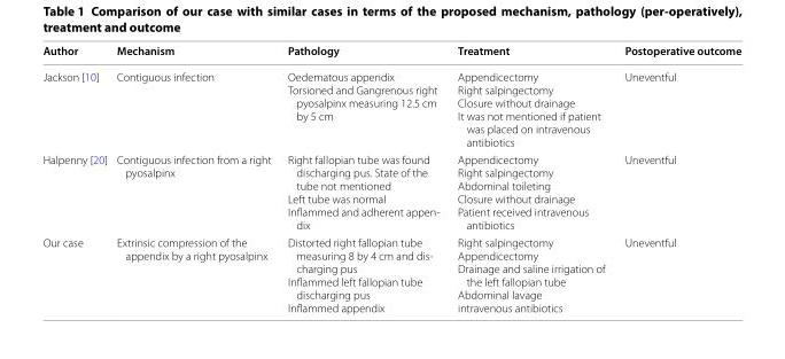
<table><thead><tr><td>Author</td><td>Mechanism</td><td>Pathology</td><td>Treatment</td><td>Postoperative outcome</td></tr></thead><tbody><tr><td>Jackson [10]</td><td>Contiguous infection</td><td>Oedematous appendix Torsioned and Gangrenous right pyosalpinx measuring 12.5 cm by 5 cm</td><td>Appendicectomy Right salpingectomy Closure without drainage It was not mentioned if patient was placed on intravenous antibiotics</td><td>Uneventful</td></tr><tr><td>Halpenny [20]</td><td>Contiguous infection from a right pyosalpinx</td><td>Right fallopian tube was found discharging pus. State of the tube not mentioned Left tube was normal Inflammed and adherent appen- dix</td><td>Appendicectomy Right salpingectomy Abdominal toileting Closure without drainage Patient received intravenous antibiotics</td><td>Uneventful</td></tr><tr><td>Our case</td><td>Extrinsic compression of the appendix by a right pyosalpinx</td><td>Distorted right fallopian tube measuring 8 by 4 cm and dis- charging pus Inflammed left fallopian tube discharging pus Inflammed appendix</td><td>Right salpingectomy Appendicectomy Drainage and saline irrigation of the left fallopian tube Abdominal lavage intravenous antibiotics</td><td>Uneventful</td></tr></tbody></table>